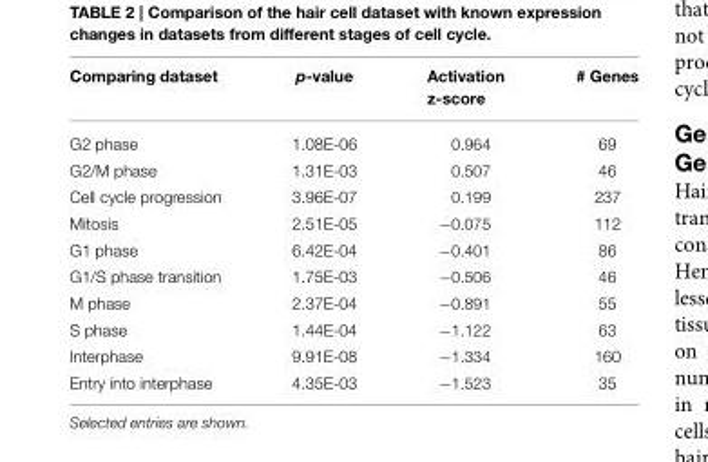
<table><thead><tr><td>Comparing dataset</td><td>p-value</td><td>Activation z-score</td><td># Genes</td></tr></thead><tbody><tr><td>G2 phase</td><td>1.08E-06</td><td>0.964</td><td>69</td></tr><tr><td>G2/M phase</td><td>1.31E-03</td><td>0.507</td><td>46</td></tr><tr><td>Cell cycle progression</td><td>3.96E-07</td><td>0.199</td><td>237</td></tr><tr><td>Mitosis</td><td>2.51E-05</td><td>−0.075</td><td>112</td></tr><tr><td>G1 phase</td><td>6.42E-04</td><td>−0.401</td><td>86</td></tr><tr><td>G1/S phase transition</td><td>1.75E-03</td><td>−0.506</td><td>46</td></tr><tr><td>M phase</td><td>2.37E-04</td><td>−0.891</td><td>55</td></tr><tr><td>S phase</td><td>1.44E-04</td><td>−1.122</td><td>63</td></tr><tr><td>Interphase</td><td>9.91E-08</td><td>−1.334</td><td>160</td></tr><tr><td>Entry into interphase</td><td>4.35E-03</td><td>−1.523</td><td>35</td></tr></tbody></table>